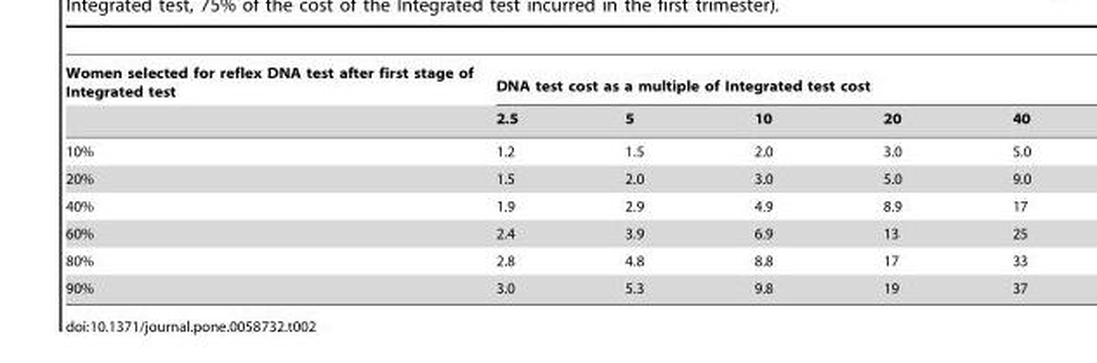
<table><thead><tr><td rowspan="2">Women selected for reflex DNA test after first stage of Integrated test</td><td colspan="5">DNA test cost as a multiple of Integrated test cost</td></tr><tr><td>2.5</td><td>5</td><td>10</td><td>20</td><td>40</td></tr></thead><tbody><tr><td>10%</td><td>1.2</td><td>1.5</td><td>2.0</td><td>3.0</td><td>5.0</td></tr><tr><td>20%</td><td>1.5</td><td>2.0</td><td>3.0</td><td>5.0</td><td>9.0</td></tr><tr><td>40%</td><td>1.9</td><td>2.9</td><td>4.9</td><td>8.9</td><td>17</td></tr><tr><td>60%</td><td>2.4</td><td>3.9</td><td>6.9</td><td>13</td><td>25</td></tr><tr><td>80%</td><td>2.8</td><td>4.8</td><td>8.8</td><td>17</td><td>33</td></tr><tr><td>90%</td><td>3.0</td><td>5.3</td><td>9.8</td><td>19</td><td>37</td></tr></tbody></table>